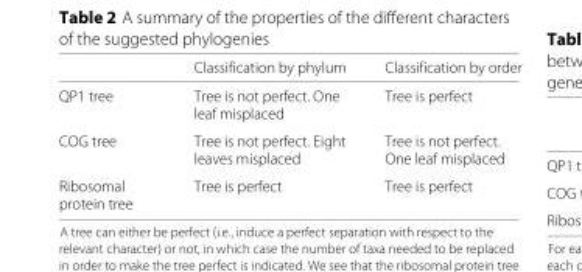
<table><thead><tr><td></td><td>Classification by phylum</td><td>Classification by order</td></tr></thead><tbody><tr><td>QP1 tree</td><td>Tree is not perfect. One leaf misplaced</td><td>Tree is perfect</td></tr><tr><td>COG tree</td><td>Tree is not perfect. Eight leaves misplaced</td><td>Tree is not perfect. One leaf misplaced</td></tr><tr><td>Ribosomal protein tree</td><td>Tree is perfect</td><td>Tree is perfect</td></tr></tbody></table>